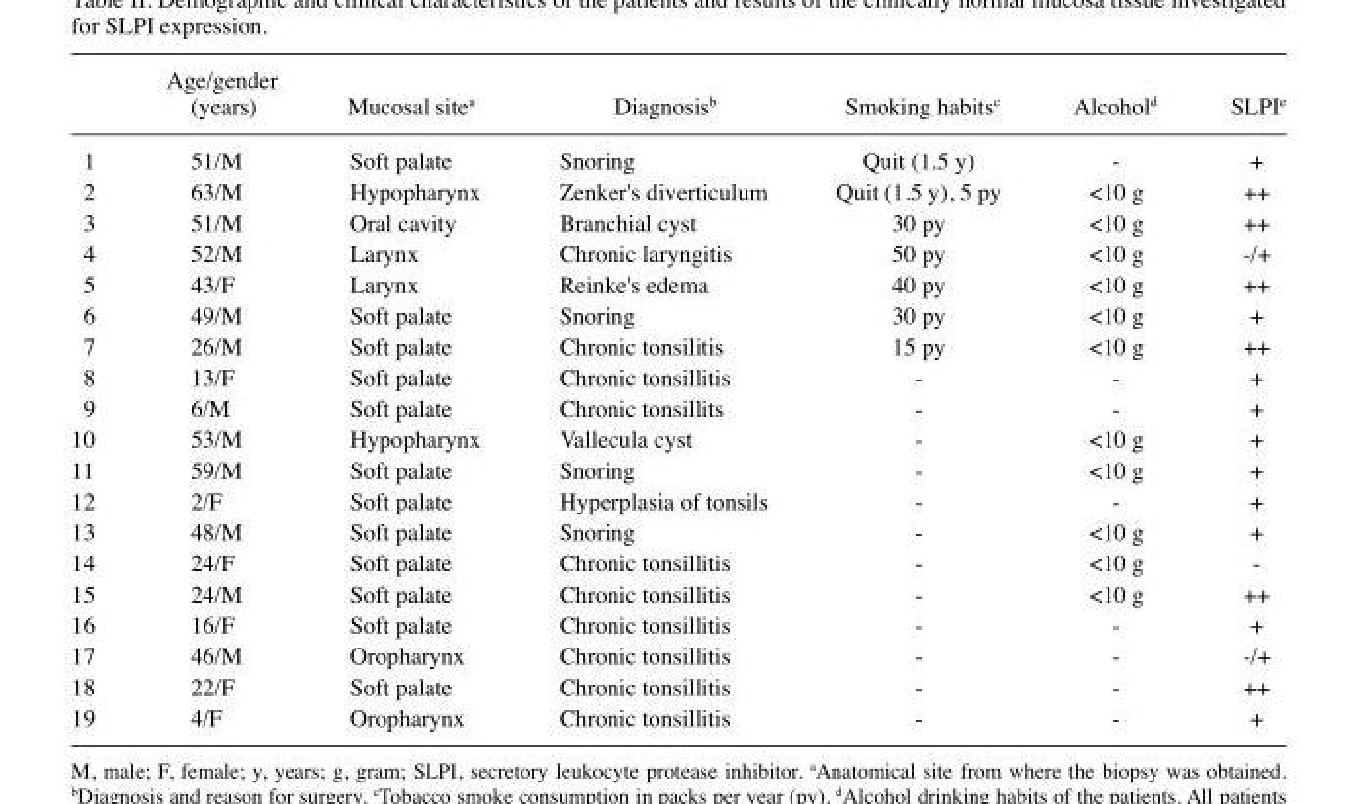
<table><thead><tr><td></td><td>Age/gender (years)</td><td>Mucosal site<sup>a</sup></td><td>Diagnosis<sup>b</sup></td><td>Smoking habits<sup>c</sup></td><td>Alcohol<sup>d</sup></td><td>SLPI<sup>e</sup></td></tr></thead><tbody><tr><td>1</td><td>51/M</td><td>Soft palate</td><td>Snoring</td><td>Quit (1.5 y)</td><td>-</td><td>+</td></tr><tr><td>2</td><td>63/M</td><td>Hypopharynx</td><td>Zenker&#x27;s diverticulum</td><td>Quit (1.5 y), 5 py</td><td>&lt;10 g</td><td>++</td></tr><tr><td>3</td><td>51/M</td><td>Oral cavity</td><td>Branchial cyst</td><td>30 py</td><td>&lt;10 g</td><td>++</td></tr><tr><td>4</td><td>52/M</td><td>Larynx</td><td>Chronic laryngitis</td><td>50 py</td><td>&lt;10 g</td><td>-/+</td></tr><tr><td>5</td><td>43/F</td><td>Larynx</td><td>Reinke&#x27;s edema</td><td>40 py</td><td>&lt;10 g</td><td>++</td></tr><tr><td>6</td><td>49/M</td><td>Soft palate</td><td>Snoring</td><td>30 py</td><td>&lt;10 g</td><td>+</td></tr><tr><td>7</td><td>26/M</td><td>Soft palate</td><td>Chronic tonsilitis</td><td>15 py</td><td>&lt;10 g</td><td>++</td></tr><tr><td>8</td><td>13/F</td><td>Soft palate</td><td>Chronic tonsillitis</td><td>-</td><td>-</td><td>+</td></tr><tr><td>9</td><td>6/M</td><td>Soft palate</td><td>Chronic tonsillits</td><td>-</td><td>-</td><td>+</td></tr><tr><td>10</td><td>53/M</td><td>Hypopharynx</td><td>Vallecula cyst</td><td>-</td><td>&lt;10 g</td><td>+</td></tr><tr><td>11</td><td>59/M</td><td>Soft palate</td><td>Snoring</td><td>-</td><td>&lt;10 g</td><td>+</td></tr><tr><td>12</td><td>2/F</td><td>Soft palate</td><td>Hyperplasia of tonsils</td><td>-</td><td>-</td><td>+</td></tr><tr><td>13</td><td>48/M</td><td>Soft palate</td><td>Snoring</td><td>-</td><td>&lt;10 g</td><td>+</td></tr><tr><td>14</td><td>24/F</td><td>Soft palate</td><td>Chronic tonsillitis</td><td>-</td><td>&lt;10 g</td><td>-</td></tr><tr><td>15</td><td>24/M</td><td>Soft palate</td><td>Chronic tonsillitis</td><td>-</td><td>&lt;10 g</td><td>++</td></tr><tr><td>16</td><td>16/F</td><td>Soft palate</td><td>Chronic tonsillitis</td><td>-</td><td>-</td><td>+</td></tr><tr><td>17</td><td>46/M</td><td>Oropharynx</td><td>Chronic tonsillitis</td><td>-</td><td>-</td><td>-/+</td></tr><tr><td>18</td><td>22/F</td><td>Soft palate</td><td>Chronic tonsillitis</td><td>-</td><td>-</td><td>++</td></tr><tr><td>19</td><td>4/F</td><td>Oropharynx</td><td>Chronic tonsillitis</td><td>-</td><td>-</td><td>+</td></tr></tbody></table>